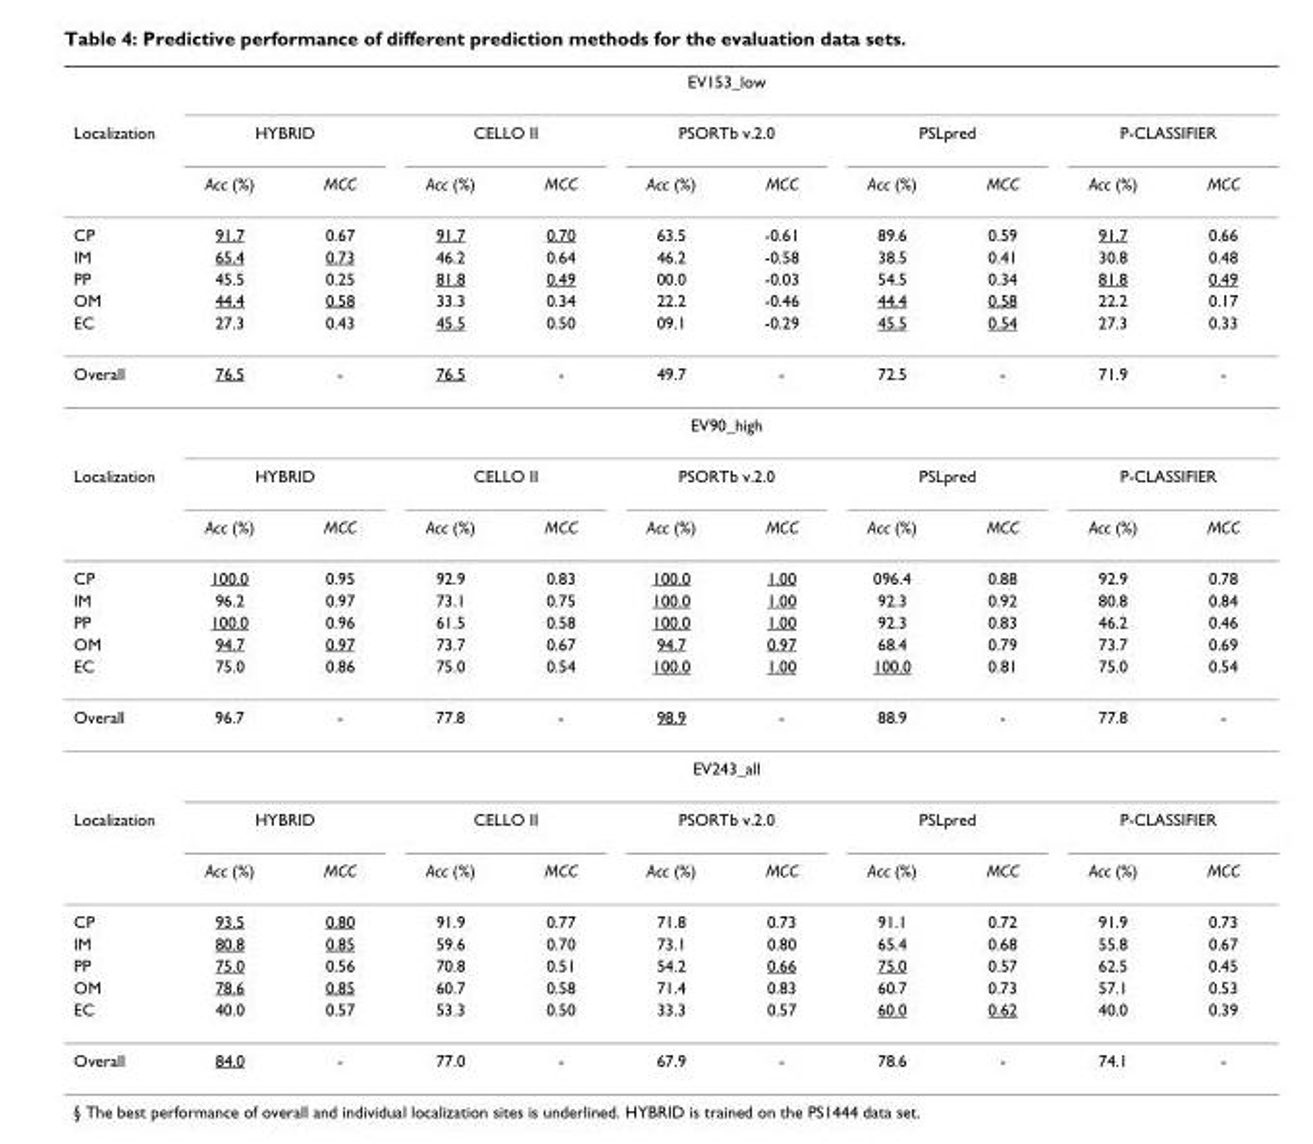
<table><thead><tr><td rowspan="3">Localization</td><td colspan="10">EV153_low</td></tr><tr><td colspan="2">HYBRID</td><td colspan="2">CELLO II</td><td colspan="2">PSORTb v.2.0</td><td colspan="2">PSLpred</td><td colspan="2">P-CLASSIFIER</td></tr><tr><td>Acc (%)</td><td>MCC</td><td>Acc (%)</td><td>MCC</td><td>Acc (%)</td><td>MCC</td><td>Acc (%)</td><td>MCC</td><td>Acc (%)</td><td>MCC</td></tr></thead><tbody><tr><td>CP</td><td>91.7</td><td>0.67</td><td>91.7</td><td>0.70</td><td>63.5</td><td>-0.61</td><td>89.6</td><td>0.59</td><td>91.7</td><td>0.66</td></tr><tr><td>IM</td><td>65.4</td><td>0.73</td><td>46.2</td><td>0.64</td><td>46.2</td><td>-0.58</td><td>38.5</td><td>0.41</td><td>30.8</td><td>0.48</td></tr><tr><td>PP</td><td>45.5</td><td>0.25</td><td>81.8</td><td>0.49</td><td>00.0</td><td>-0.03</td><td>54.5</td><td>0.34</td><td>81.8</td><td>0.49</td></tr><tr><td>OM</td><td>44.4</td><td>0.58</td><td>33.3</td><td>0.34</td><td>22.2</td><td>-0.46</td><td>44.4</td><td>0.58</td><td>22.2</td><td>0.17</td></tr><tr><td>EC</td><td>27.3</td><td>0.43</td><td>45.5</td><td>0.50</td><td>09.1</td><td>-0.29</td><td>45.5</td><td>0.54</td><td>27.3</td><td>0.33</td></tr><tr><td rowspan="2">Overall</td><td>76.5</td><td>-</td><td>76.5</td><td>-</td><td>49.7</td><td>-</td><td>72.5</td><td>-</td><td>71.9</td><td>-</td></tr><tr><td colspan="10">EV90_high</td></tr><tr><td rowspan="2">Localization</td><td colspan="2">HYBRID</td><td colspan="2">CELLO II</td><td colspan="2">PSORTb v.2.0</td><td colspan="2">PSLpred</td><td colspan="2">P-CLASSIFIER</td></tr><tr><td>Acc (%)</td><td>MCC</td><td>Acc (%)</td><td>MCC</td><td>Acc (%)</td><td>MCC</td><td>Acc (%)</td><td>MCC</td><td>Acc (%)</td><td>MCC</td></tr><tr><td>CP</td><td>100.0</td><td>0.95</td><td>92.9</td><td>0.83</td><td>100.0</td><td>1.00</td><td>096.4</td><td>0.88</td><td>92.9</td><td>0.78</td></tr><tr><td>IM</td><td>96.2</td><td>0.97</td><td>73.1</td><td>0.75</td><td>100.0</td><td>1.00</td><td>92.3</td><td>0.92</td><td>80.8</td><td>0.84</td></tr><tr><td>PP</td><td>100.0</td><td>0.96</td><td>61.5</td><td>0.58</td><td>100.0</td><td>1.00</td><td>92.3</td><td>0.83</td><td>46.2</td><td>0.46</td></tr><tr><td>OM</td><td>94.7</td><td>0.97</td><td>73.7</td><td>0.67</td><td>94.7</td><td>0.97</td><td>68.4</td><td>0.79</td><td>73.7</td><td>0.69</td></tr><tr><td>EC</td><td>75.0</td><td>0.86</td><td>75.0</td><td>0.54</td><td>100.0</td><td>1.00</td><td>100.0</td><td>0.81</td><td>75.0</td><td>0.54</td></tr><tr><td rowspan="2">Overall</td><td>96.7</td><td>-</td><td>77.8</td><td>-</td><td>98.9</td><td>-</td><td>88.9</td><td>-</td><td>77.8</td><td>-</td></tr><tr><td colspan="10">EV243_all</td></tr><tr><td rowspan="2">Localization</td><td colspan="2">HYBRID</td><td colspan="2">CELLO II</td><td colspan="2">PSORTb v.2.0</td><td colspan="2">PSLpred</td><td colspan="2">P-CLASSIFIER</td></tr><tr><td>Acc (%)</td><td>MCC</td><td>Acc (%)</td><td>MCC</td><td>Acc (%)</td><td>MCC</td><td>Acc (%)</td><td>MCC</td><td>Acc (%)</td><td>MCC</td></tr><tr><td>CP</td><td>93.5</td><td>0.80</td><td>91.9</td><td>0.77</td><td>71.8</td><td>0.73</td><td>91.1</td><td>0.72</td><td>91.9</td><td>0.73</td></tr><tr><td>IM</td><td>80.8</td><td>0.85</td><td>59.6</td><td>0.70</td><td>73.1</td><td>0.80</td><td>65.4</td><td>0.68</td><td>55.8</td><td>0.67</td></tr><tr><td>PP</td><td>75.0</td><td>0.56</td><td>70.8</td><td>0.51</td><td>54.2</td><td>0.66</td><td>75.0</td><td>0.57</td><td>62.5</td><td>0.45</td></tr><tr><td>OM</td><td>78.6</td><td>0.85</td><td>60.7</td><td>0.58</td><td>71.4</td><td>0.83</td><td>60.7</td><td>0.73</td><td>57.1</td><td>0.53</td></tr><tr><td>EC</td><td>40.0</td><td>0.57</td><td>53.3</td><td>0.50</td><td>33.3</td><td>0.57</td><td>60.0</td><td>0.62</td><td>40.0</td><td>0.39</td></tr><tr><td>Overall</td><td>84.0</td><td>-</td><td>77.0</td><td>-</td><td>67.9</td><td>-</td><td>78.6</td><td>-</td><td>74.1</td><td>-</td></tr></tbody></table>